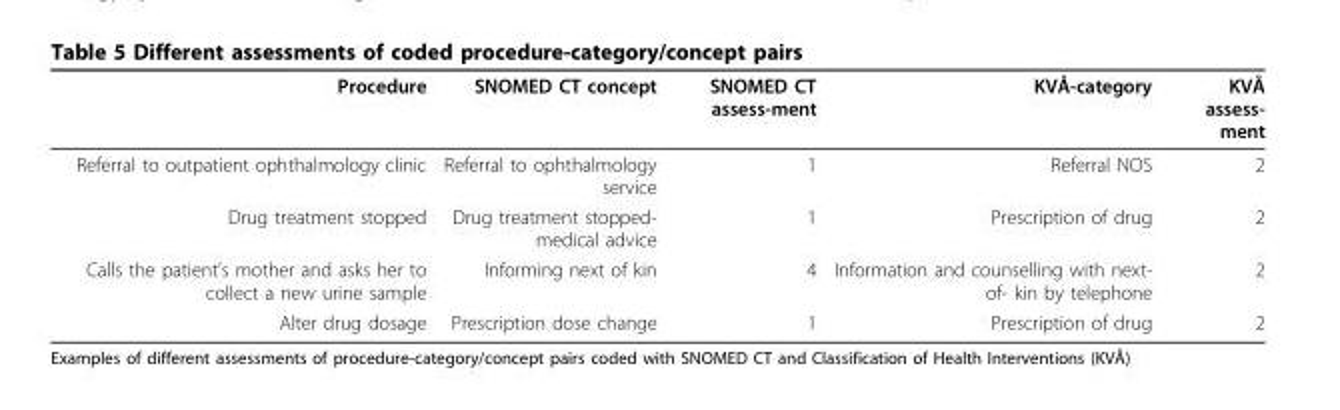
<table><thead><tr><td>Procedure</td><td>SNOMED CT concept</td><td>SNOMED CT assess-ment</td><td>KVÅ-category</td><td>KVÅ assess- ment</td></tr></thead><tbody><tr><td>Referral to outpatient ophthalmology clinic</td><td>Referral to ophthalmology service</td><td>1</td><td>Referral NOS</td><td>2</td></tr><tr><td>Drug treatment stopped</td><td>Drug treatment stopped- medical advice</td><td>1</td><td>Prescription of drug</td><td>2</td></tr><tr><td>Calls the patient’s mother and asks her to collect a new urine sample</td><td>Informing next of kin</td><td>4</td><td>Information and counselling with next- of- kin by telephone</td><td>2</td></tr><tr><td>Alter drug dosage</td><td>Prescription dose change</td><td>1</td><td>Prescription of drug</td><td>2</td></tr></tbody></table>